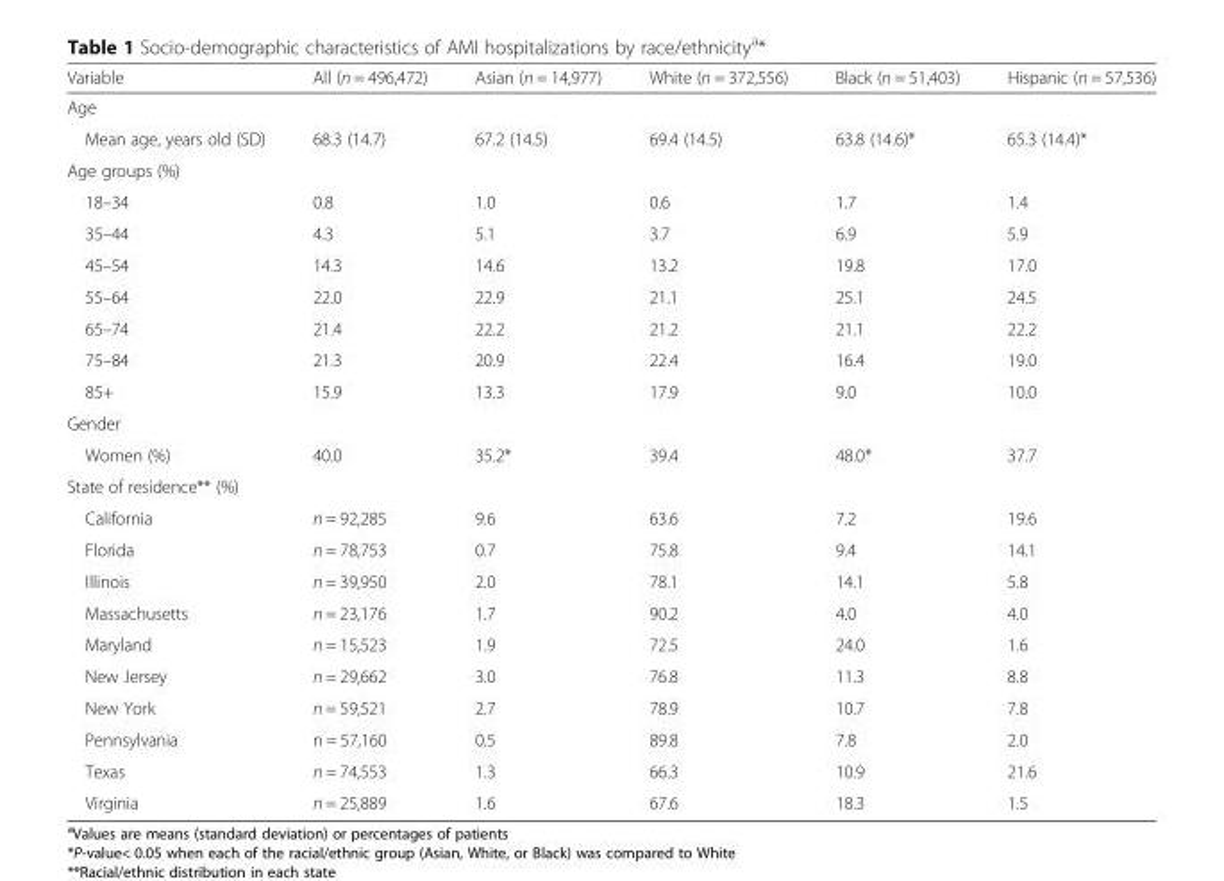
<table><thead><tr><td>Variable</td><td>All (n = 496,472)</td><td>Asian (n = 14,977)</td><td>White (n = 372,556)</td><td>Black (n = 51,403)</td><td>Hispanic (n = 57,536)</td></tr></thead><tbody><tr><td colspan="6">Age</td></tr><tr><td>Mean age, years old (SD)</td><td>68.3 (14.7)</td><td>67.2 (14.5)</td><td>69.4 (14.5)</td><td>63.8 (14.6)*</td><td>65.3 (14.4)*</td></tr><tr><td colspan="6">Age groups (%)</td></tr><tr><td>18–34</td><td>0.8</td><td>1.0</td><td>0.6</td><td>1.7</td><td>1.4</td></tr><tr><td>35–44</td><td>4.3</td><td>5.1</td><td>3.7</td><td>6.9</td><td>5.9</td></tr><tr><td>45–54</td><td>14.3</td><td>14.6</td><td>13.2</td><td>19.8</td><td>17.0</td></tr><tr><td>55–64</td><td>22.0</td><td>22.9</td><td>21.1</td><td>25.1</td><td>24.5</td></tr><tr><td>65–74</td><td>21.4</td><td>22.2</td><td>21.2</td><td>21.1</td><td>22.2</td></tr><tr><td>75–84</td><td>21.3</td><td>20.9</td><td>22.4</td><td>16.4</td><td>19.0</td></tr><tr><td>85+</td><td>15.9</td><td>13.3</td><td>17.9</td><td>9.0</td><td>10.0</td></tr><tr><td colspan="6">Gender</td></tr><tr><td>Women (%)</td><td>40.0</td><td>35.2*</td><td>39.4</td><td>48.0*</td><td>37.7</td></tr><tr><td colspan="6">State of residence** (%)</td></tr><tr><td>California</td><td>n = 92,285</td><td>9.6</td><td>63.6</td><td>7.2</td><td>19.6</td></tr><tr><td>Florida</td><td>n = 78,753</td><td>0.7</td><td>75.8</td><td>9.4</td><td>14.1</td></tr><tr><td>Illinois</td><td>n = 39,950</td><td>2.0</td><td>78.1</td><td>14.1</td><td>5.8</td></tr><tr><td>Massachusetts</td><td>n = 23,176</td><td>1.7</td><td>90.2</td><td>4.0</td><td>4.0</td></tr><tr><td>Maryland</td><td>n = 15,523</td><td>1.9</td><td>72.5</td><td>24.0</td><td>1.6</td></tr><tr><td>New Jersey</td><td>n = 29,662</td><td>3.0</td><td>76.8</td><td>11.3</td><td>8.8</td></tr><tr><td>New York</td><td>n = 59,521</td><td>2.7</td><td>78.9</td><td>10.7</td><td>7.8</td></tr><tr><td>Pennsylvania</td><td>n = 57,160</td><td>0.5</td><td>89.8</td><td>7.8</td><td>2.0</td></tr><tr><td>Texas</td><td>n = 74,553</td><td>1.3</td><td>66.3</td><td>10.9</td><td>21.6</td></tr><tr><td>Virginia</td><td>n = 25,889</td><td>1.6</td><td>67.6</td><td>18.3</td><td>1.5</td></tr></tbody></table>